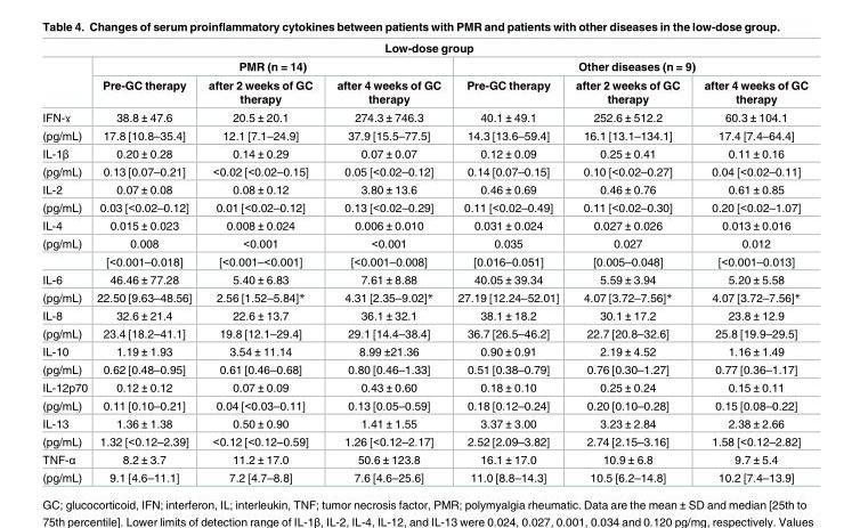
<table><thead><tr><td colspan="7">Low-dose group</td></tr><tr><td rowspan="2"></td><td colspan="3">PMR (n = 14)</td><td colspan="3">Other diseases (n = 9)</td></tr><tr><td>Pre-GC therapy</td><td>after 2 weeks of GC therapy</td><td>after 4 weeks of GC therapy</td><td>Pre-GC therapy</td><td>after 2 weeks of GC therapy</td><td>after 4 weeks of GC therapy</td></tr></thead><tbody><tr><td>IFN-ɤ</td><td>38.8 ± 47.6</td><td>20.5 ± 20.1</td><td>274.3 ± 746.3</td><td>40.1 ± 49.1</td><td>252.6 ± 512.2</td><td>60.3 ± 104.1</td></tr><tr><td>(pg/mL)</td><td>17.8 [10.8–35.4]</td><td>12.1 [7.1–24.9]</td><td>37.9 [15.5–77.5]</td><td>14.3 [13.6–59.4]</td><td>16.1 [13.1–134.1]</td><td>17.4 [7.4–64.4]</td></tr><tr><td>IL-1β</td><td>0.20 ± 0.28</td><td>0.14 ± 0.29</td><td>0.07 ± 0.07</td><td>0.12 ± 0.09</td><td>0.25 ± 0.41</td><td>0.11 ± 0.16</td></tr><tr><td>(pg/mL)</td><td>0.13 [0.07–0.21]</td><td>&lt;0.02 [&lt;0.02–0.15]</td><td>0.05 [&lt;0.02–0.12]</td><td>0.14 [0.07–0.15]</td><td>0.10 [&lt;0.02–0.27]</td><td>0.04 [&lt;0.02–0.11]</td></tr><tr><td>IL-2</td><td>0.07 ± 0.08</td><td>0.08 ± 0.12</td><td>3.80 ± 13.6</td><td>0.46 ± 0.69</td><td>0.46 ± 0.76</td><td>0.61 ± 0.85</td></tr><tr><td>(pg/mL)</td><td>0.03 [&lt;0.02–0.12]</td><td>0.01 [&lt;0.02–0.12]</td><td>0.13 [&lt;0.02–0.29]</td><td>0.11 [&lt;0.02–0.49]</td><td>0.11 [&lt;0.02–0.30]</td><td>0.20 [&lt;0.02–1.07]</td></tr><tr><td>IL-4</td><td>0.015 ± 0.023</td><td>0.008 ± 0.024</td><td>0.006 ± 0.010</td><td>0.031 ± 0.024</td><td>0.027 ± 0.026</td><td>0.013 ± 0.016</td></tr><tr><td rowspan="2">(pg/mL)</td><td>0.008</td><td>&lt;0.001</td><td>&lt;0.001</td><td>0.035</td><td>0.027</td><td>0.012</td></tr><tr><td>[&lt;0.001–0.018]</td><td>[&lt;0.001–&lt;0.001]</td><td>[&lt;0.001–0.008]</td><td>[0.016–0.051]</td><td>[0.005–0.048]</td><td>[&lt;0.001–0.013]</td></tr><tr><td>IL-6</td><td>46.46 ± 77.28</td><td>5.40 ± 6.83</td><td>7.61 ± 8.88</td><td>40.05 ± 39.34</td><td>5.59 ± 3.94</td><td>5.20 ± 5.58</td></tr><tr><td>(pg/mL)</td><td>22.50 [9.63–48.56]</td><td>2.56 [1.52–5.84]*</td><td>4.31 [2.35–9.02]*</td><td>27.19 [12.24–52.01]</td><td>4.07 [3.72–7.56]*</td><td>4.07 [3.72–7.56]*</td></tr><tr><td>IL-8</td><td>32.6 ± 21.4</td><td>22.6 ± 13.7</td><td>36.1 ± 32.1</td><td>38.1 ± 18.2</td><td>30.1 ± 17.2</td><td>23.8 ± 12.9</td></tr><tr><td>(pg/mL)</td><td>23.4 [18.2–41.1]</td><td>19.8 [12.1–29.4]</td><td>29.1 [14.4–38.4]</td><td>36.7 [26.5–46.2]</td><td>22.7 [20.8–32.6]</td><td>25.8 [19.9–29.5]</td></tr><tr><td>IL-10</td><td>1.19 ± 1.93</td><td>3.54 ± 11.14</td><td>8.99 ±21.36</td><td>0.90 ± 0.91</td><td>2.19 ± 4.52</td><td>1.16 ± 1.49</td></tr><tr><td>(pg/mL)</td><td>0.62 [0.48–0.95]</td><td>0.61 [0.46–0.68]</td><td>0.80 [0.46–1.33]</td><td>0.51 [0.38–0.79]</td><td>0.76 [0.30–1.27]</td><td>0.77 [0.36–1.17]</td></tr><tr><td>IL-12p70</td><td>0.12 ± 0.12</td><td>0.07 ± 0.09</td><td>0.43 ± 0.60</td><td>0.18 ± 0.10</td><td>0.25 ± 0.24</td><td>0.15 ± 0.11</td></tr><tr><td>(pg/mL)</td><td>0.11 [0.10–0.21]</td><td>0.04 [&lt;0.03–0.11]</td><td>0.13 [0.05–0.59]</td><td>0.18 [0.12–0.24]</td><td>0.20 [0.10–0.28]</td><td>0.15 [0.08–0.22]</td></tr><tr><td>IL-13</td><td>1.36 ± 1.38</td><td>0.50 ± 0.90</td><td>1.41 ± 1.55</td><td>3.37 ± 3.00</td><td>3.23 ± 2.84</td><td>2.38 ± 2.66</td></tr><tr><td>(pg/mL)</td><td>1.32 [&lt;0.12–2.39]</td><td>&lt;0.12 [&lt;0.12–0.59]</td><td>1.26 [&lt;0.12–2.17]</td><td>2.52 [2.09–3.82]</td><td>2.74 [2.15–3.16]</td><td>1.58 [&lt;0.12–2.82]</td></tr><tr><td>TNF-α</td><td>8.2 ± 3.7</td><td>11.2 ± 17.0</td><td>50.6 ± 123.8</td><td>16.1 ± 17.0</td><td>10.9 ± 6.8</td><td>9.7 ± 5.4</td></tr><tr><td>(pg/mL)</td><td>9.1 [4.6–11.1]</td><td>7.2 [4.7–8.8]</td><td>7.6 [4.6–25.6]</td><td>11.0 [8.8–14.3]</td><td>10.5 [6.2–14.8]</td><td>10.2 [7.4–13.9]</td></tr></tbody></table>